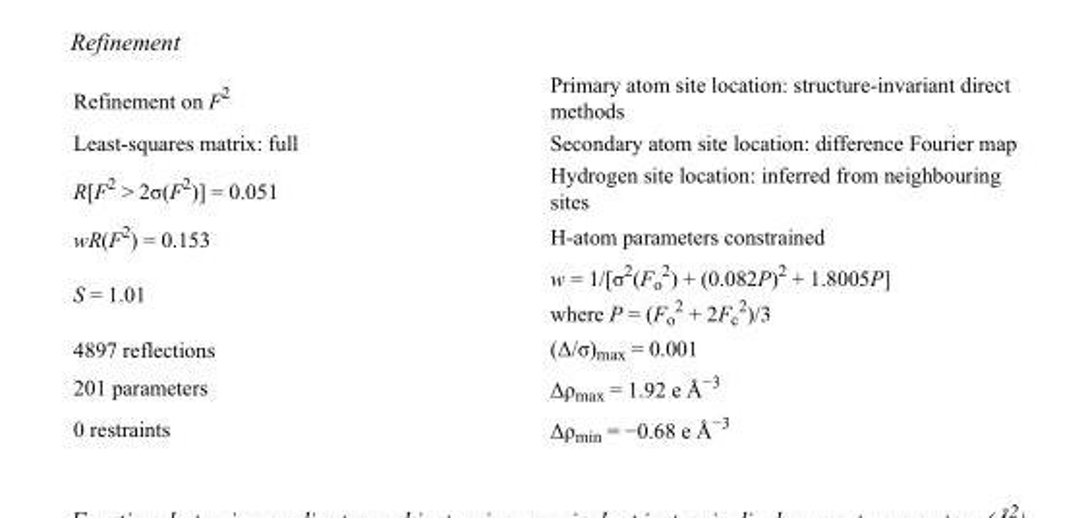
<table><tbody><tr><td>Refinement on F<sup>2</sup></td><td>Primary atom site location: structure-invariant direct methods</td></tr><tr><td>Least-squares matrix: full</td><td>Secondary atom site location: difference Fourier map</td></tr><tr><td>R[F<sup>2</sup> &gt; 2σ(F<sup>2</sup>)] = 0.051</td><td>Hydrogen site location: inferred from neighbouring sites</td></tr><tr><td>wR(F<sup>2</sup>) = 0.153</td><td>H-atom parameters constrained</td></tr><tr><td>S = 1.01</td><td>w = 1/[σ<sup>2</sup>(F<sub>o</sub> <sup>2</sup>) + (0.082P)<sup>2</sup> + 1.8005P] where P = (F<sub>o</sub> <sup>2</sup> + 2F<sub>c</sub> <sup>2</sup>)/3</td></tr><tr><td>4897 reflections</td><td>(Δ/σ)<sub>max</sub> = 0.001</td></tr><tr><td>201 parameters</td><td>Δρ<sub>max</sub> = 1.92 e Å<sup>−3</sup></td></tr><tr><td>0 restraints</td><td>Δρ<sub>min</sub> = −0.68 e Å<sup>−3</sup></td></tr></tbody></table>